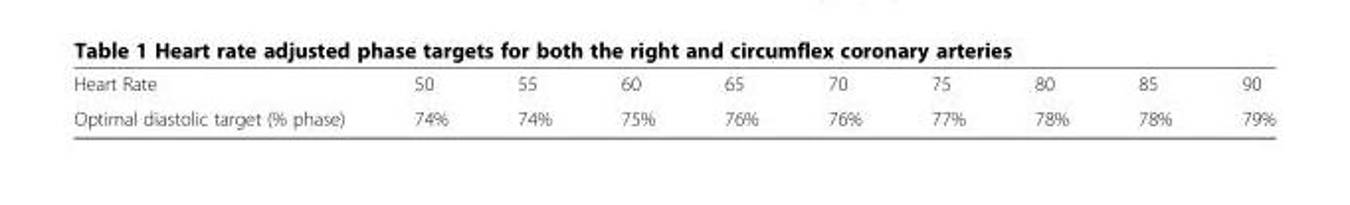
<table><tbody><tr><td>Heart Rate</td><td>50</td><td>55</td><td>60</td><td>65</td><td>70</td><td>75</td><td>80</td><td>85</td><td>90</td></tr><tr><td>Optimal diastolic target (% phase)</td><td>74%</td><td>74%</td><td>75%</td><td>76%</td><td>76%</td><td>77%</td><td>78%</td><td>78%</td><td>79%</td></tr></tbody></table>